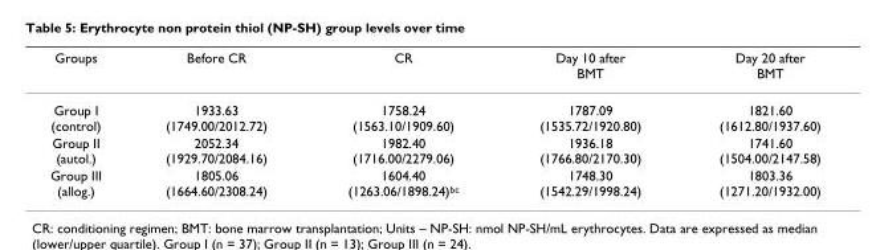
<table><thead><tr><td>Groups</td><td>Before CR</td><td>CR</td><td>Day 10 after BMT</td><td>Day 20 after BMT</td></tr></thead><tbody><tr><td>Group I (control)</td><td>1933.63 (1749.00/2012.72)</td><td>1758.24 (1563.10/1909.60)</td><td>1787.09 (1535.72/1920.80)</td><td>1821.60 (1612.80/1937.60)</td></tr><tr><td>Group II (autol.)</td><td>2052.34 (1929.70/2084.16)</td><td>1982.40 (1716.00/2279.06)</td><td>1936.18 (1766.80/2170.30)</td><td>1741.60 (1504.00/2147.58)</td></tr><tr><td>Group III (allog.)</td><td>1805.06 (1664.60/2308.24)</td><td>1604.40 (1263.06/1898.24)<sup>bc</sup></td><td>1748.30 (1542.29/1998.24)</td><td>1803.36 (1271.20/1932.00)</td></tr></tbody></table>